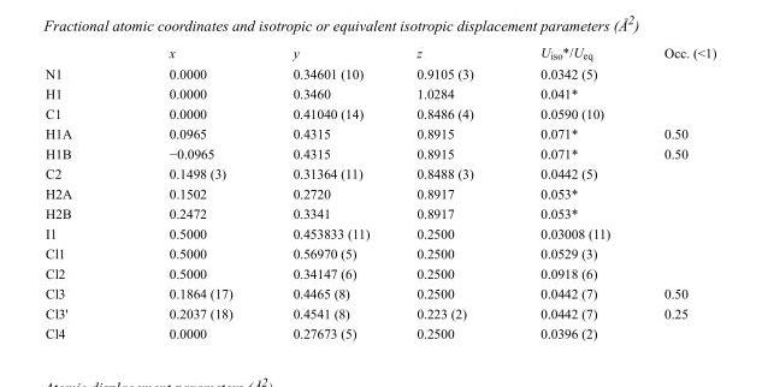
<table><thead><tr><td></td><td>x</td><td>y</td><td>z</td><td>U<sub>iso</sub>*/U<sub>eq</sub></td><td>Occ. (&lt;1)</td></tr></thead><tbody><tr><td>N1</td><td>0.0000</td><td>0.34601 (10)</td><td>0.9105 (3)</td><td>0.0342 (5)</td><td></td></tr><tr><td>H1</td><td>0.0000</td><td>0.3460</td><td>1.0284</td><td>0.041*</td><td></td></tr><tr><td>C1</td><td>0.0000</td><td>0.41040 (14)</td><td>0.8486 (4)</td><td>0.0590 (10)</td><td></td></tr><tr><td>H1A</td><td>0.0965</td><td>0.4315</td><td>0.8915</td><td>0.071*</td><td>0.50</td></tr><tr><td>H1B</td><td>−0.0965</td><td>0.4315</td><td>0.8915</td><td>0.071*</td><td>0.50</td></tr><tr><td>C2</td><td>0.1498 (3)</td><td>0.31364 (11)</td><td>0.8488 (3)</td><td>0.0442 (5)</td><td></td></tr><tr><td>H2A</td><td>0.1502</td><td>0.2720</td><td>0.8917</td><td>0.053*</td><td></td></tr><tr><td>H2B</td><td>0.2472</td><td>0.3341</td><td>0.8917</td><td>0.053*</td><td></td></tr><tr><td>I1</td><td>0.5000</td><td>0.453833 (11)</td><td>0.2500</td><td>0.03008 (11)</td><td></td></tr><tr><td>Cl1</td><td>0.5000</td><td>0.56970 (5)</td><td>0.2500</td><td>0.0529 (3)</td><td></td></tr><tr><td>Cl2</td><td>0.5000</td><td>0.34147 (6)</td><td>0.2500</td><td>0.0918 (6)</td><td></td></tr><tr><td>Cl3</td><td>0.1864 (17)</td><td>0.4465 (8)</td><td>0.2500</td><td>0.0442 (7)</td><td>0.50</td></tr><tr><td>Cl3&#x27;</td><td>0.2037 (18)</td><td>0.4541 (8)</td><td>0.223 (2)</td><td>0.0442 (7)</td><td>0.25</td></tr><tr><td>Cl4</td><td>0.0000</td><td>0.27673 (5)</td><td>0.2500</td><td>0.0396 (2)</td><td></td></tr></tbody></table>